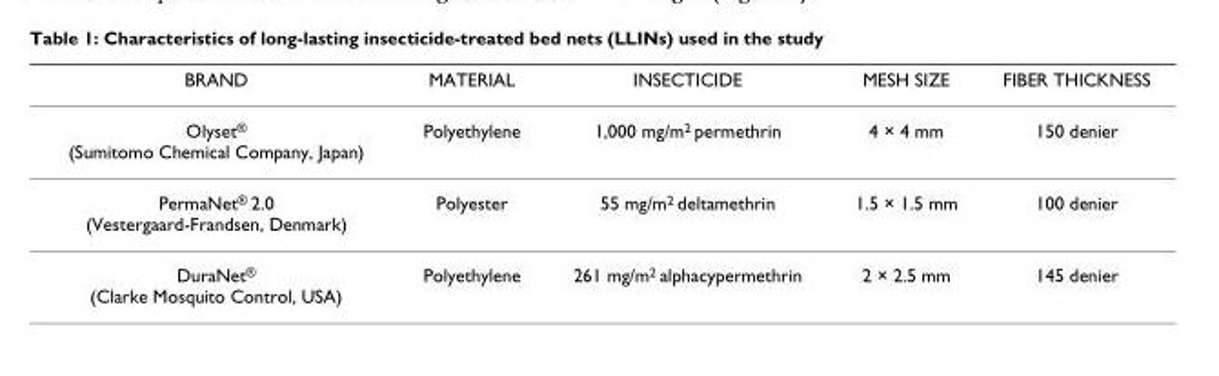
<table><thead><tr><td>BRAND</td><td>MATERIAL</td><td>INSECTICIDE</td><td>MESH SIZE</td><td>FIBER THICKNESS</td></tr></thead><tbody><tr><td>Olyset<sup>®</sup> (Sumitomo Chemical Company, Japan)</td><td>Polyethylene</td><td>1,000 mg/m<sup>2</sup> permethrin</td><td>4 × 4 mm</td><td>150 denier</td></tr><tr><td>PermaNet<sup>®</sup> 2.0 (Vestergaard-Frandsen, Denmark)</td><td>Polyester</td><td>55 mg/m<sup>2</sup> deltamethrin</td><td>1.5 × 1.5 mm</td><td>100 denier</td></tr><tr><td>DuraNet<sup>®</sup> (Clarke Mosquito Control, USA)</td><td>Polyethylene</td><td>261 mg/m<sup>2</sup> alphacypermethrin</td><td>2 × 2.5 mm</td><td>145 denier</td></tr></tbody></table>